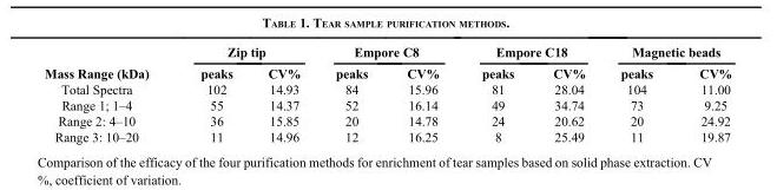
<table><thead><tr><td rowspan="2">Mass Range (kDa)</td><td colspan="2">Zip tip</td><td colspan="2">Empore C8</td><td colspan="2">Empore C18</td><td colspan="2">Magnetic beads</td></tr><tr><td>peaks</td><td>CV%</td><td>peaks</td><td>CV%</td><td>peaks</td><td>CV%</td><td>peaks</td><td>CV%</td></tr></thead><tbody><tr><td>Total Spectra</td><td>102</td><td>14.93</td><td>84</td><td>15.96</td><td>81</td><td>28.04</td><td>104</td><td>11.00</td></tr><tr><td>Range 1; 1–4</td><td>55</td><td>14.37</td><td>52</td><td>16.14</td><td>49</td><td>34.74</td><td>73</td><td>9.25</td></tr><tr><td>Range 2: 4–10</td><td>36</td><td>15.85</td><td>20</td><td>14.78</td><td>24</td><td>20.62</td><td>20</td><td>24.92</td></tr><tr><td>Range 3: 10–20</td><td>11</td><td>14.96</td><td>12</td><td>16.25</td><td>8</td><td>25.49</td><td>11</td><td>19.87</td></tr></tbody></table>